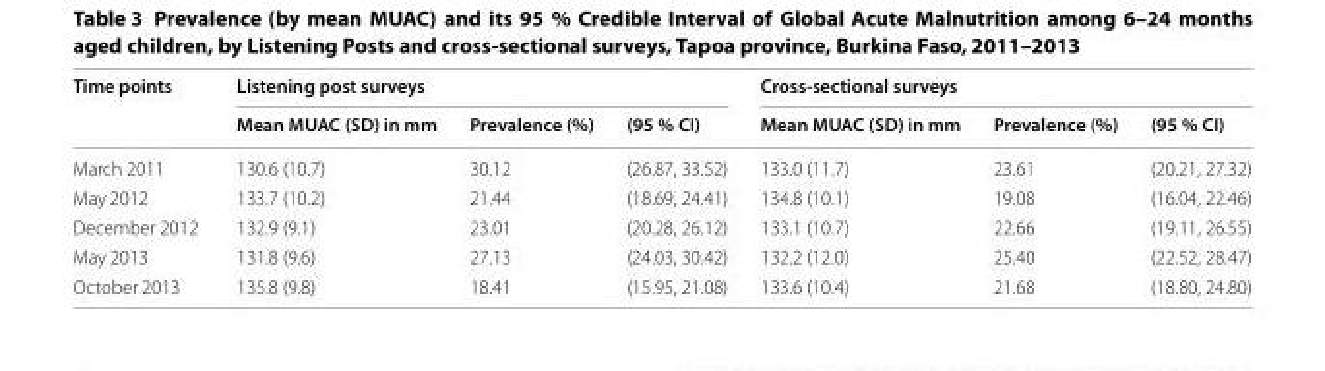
<table><thead><tr><td rowspan="2">Time points</td><td colspan="3">Listening post surveys</td><td colspan="3">Cross‑sectional surveys</td></tr><tr><td>Mean MUAC (SD) in mm</td><td>Prevalence (%)</td><td>(95 % CI)</td><td>Mean MUAC (SD) in mm</td><td>Prevalence (%)</td><td>(95 % CI)</td></tr></thead><tbody><tr><td>March 2011</td><td>130.6 (10.7)</td><td>30.12</td><td>(26.87, 33.52)</td><td>133.0 (11.7)</td><td>23.61</td><td>(20.21, 27.32)</td></tr><tr><td>May 2012</td><td>133.7 (10.2)</td><td>21.44</td><td>(18.69, 24.41)</td><td>134.8 (10.1)</td><td>19.08</td><td>(16.04, 22.46)</td></tr><tr><td>December 2012</td><td>132.9 (9.1)</td><td>23.01</td><td>(20.28, 26.12)</td><td>133.1 (10.7)</td><td>22.66</td><td>(19.11, 26.55)</td></tr><tr><td>May 2013</td><td>131.8 (9.6)</td><td>27.13</td><td>(24.03, 30.42)</td><td>132.2 (12.0)</td><td>25.40</td><td>(22.52, 28.47)</td></tr><tr><td>October 2013</td><td>135.8 (9.8)</td><td>18.41</td><td>(15.95, 21.08)</td><td>133.6 (10.4)</td><td>21.68</td><td>(18.80, 24.80)</td></tr></tbody></table>